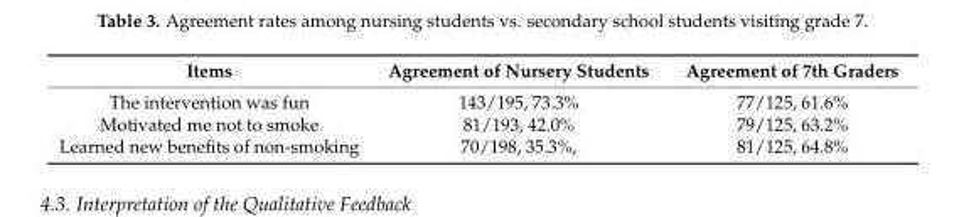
<table><thead><tr><td>Items</td><td>Agreement of Nursery Students</td><td>Agreement of 7th Graders</td></tr></thead><tbody><tr><td>The intervention was fun</td><td>143/195, 73.3%</td><td>77/125, 61.6%</td></tr><tr><td>Motivated me not to smoke</td><td>81/193, 42.0%</td><td>79/125, 63.2%</td></tr><tr><td>Learned new benefits of non-smoking</td><td>70/198, 35.3%,</td><td>81/125, 64.8%</td></tr></tbody></table>